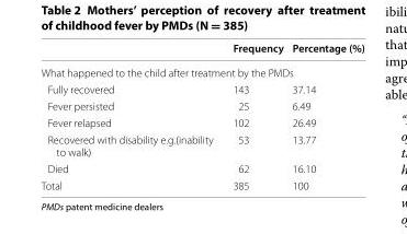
<table><thead><tr><td></td><td>Frequency</td><td>Percentage (%)</td></tr></thead><tbody><tr><td colspan="3">What happened to the child after treatment by the PMDs</td></tr><tr><td>Fully recovered</td><td>143</td><td>37.14</td></tr><tr><td>Fever persisted</td><td>25</td><td>6.49</td></tr><tr><td>Fever relapsed</td><td>102</td><td>26.49</td></tr><tr><td>Recovered with disability e.g.(inability to walk)</td><td>53</td><td>13.77</td></tr><tr><td>Died</td><td>62</td><td>16.10</td></tr><tr><td>Total</td><td>385</td><td>100</td></tr></tbody></table>